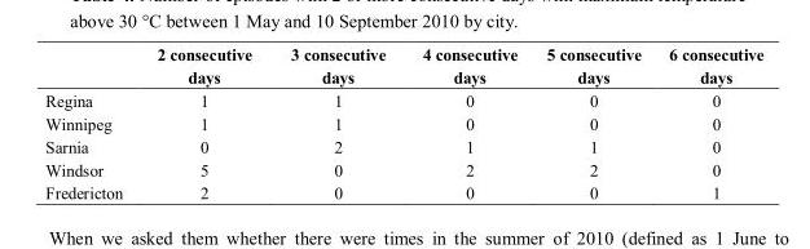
<table><thead><tr><td></td><td>2 consecutive days</td><td>3 consecutive days</td><td>4 consecutive days</td><td>5 consecutive days</td><td>6 consecutive days</td></tr></thead><tbody><tr><td>Regina</td><td>1</td><td>1</td><td>0</td><td>0</td><td>0</td></tr><tr><td>Winnipeg</td><td>1</td><td>1</td><td>0</td><td>0</td><td>0</td></tr><tr><td>Sarnia</td><td>0</td><td>2</td><td>1</td><td>1</td><td>0</td></tr><tr><td>Windsor</td><td>5</td><td>0</td><td>2</td><td>2</td><td>0</td></tr><tr><td>Fredericton</td><td>2</td><td>0</td><td>0</td><td>0</td><td>1</td></tr></tbody></table>